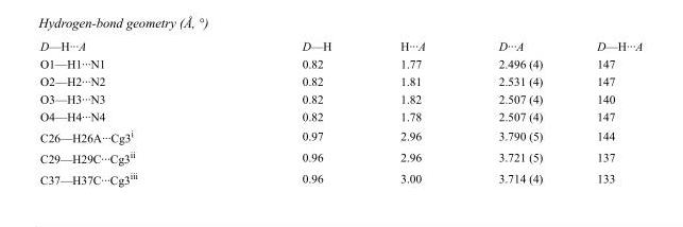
<table><tbody><tr><td>D—H···A</td><td>D—H</td><td>H···A</td><td>D···A</td><td>D—H···A</td></tr><tr><td>O1—H1···N1</td><td>0.82</td><td>1.77</td><td>2.496 (4)</td><td>147</td></tr><tr><td>O2—H2···N2</td><td>0.82</td><td>1.81</td><td>2.531 (4)</td><td>147</td></tr><tr><td>O3—H3···N3</td><td>0.82</td><td>1.82</td><td>2.507 (4)</td><td>140</td></tr><tr><td>O4—H4···N4</td><td>0.82</td><td>1.78</td><td>2.507 (4)</td><td>147</td></tr><tr><td>C26—H26A···Cg3<sup>i</sup></td><td>0.97</td><td>2.96</td><td>3.790 (5)</td><td>144</td></tr><tr><td>C29—H29C···Cg3<sup>ii</sup></td><td>0.96</td><td>2.96</td><td>3.721 (5)</td><td>137</td></tr><tr><td>C37—H37C···Cg3<sup>iii</sup></td><td>0.96</td><td>3.00</td><td>3.714 (4)</td><td>133</td></tr></tbody></table>